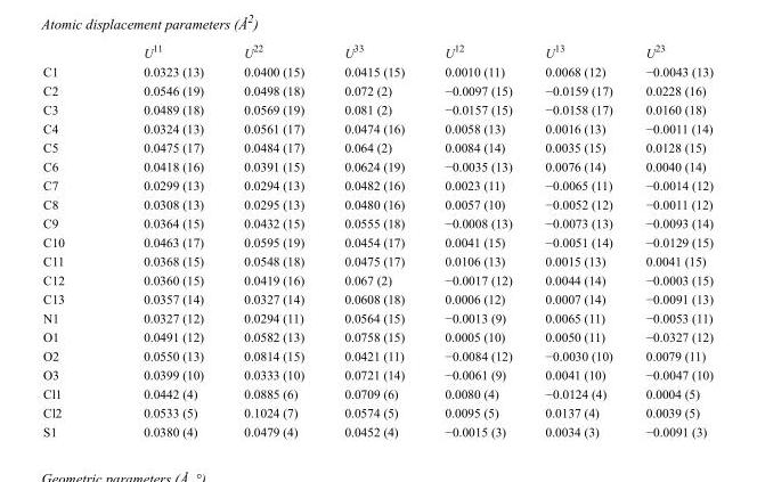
<table><thead><tr><td></td><td>U<sup>11</sup></td><td>U<sup>22</sup></td><td>U<sup>33</sup></td><td>U<sup>12</sup></td><td>U<sup>13</sup></td><td>U<sup>23</sup></td></tr></thead><tbody><tr><td>C1</td><td>0.0323 (13)</td><td>0.0400 (15)</td><td>0.0415 (15)</td><td>0.0010 (11)</td><td>0.0068 (12)</td><td>−0.0043 (13)</td></tr><tr><td>C2</td><td>0.0546 (19)</td><td>0.0498 (18)</td><td>0.072 (2)</td><td>−0.0097 (15)</td><td>−0.0159 (17)</td><td>0.0228 (16)</td></tr><tr><td>C3</td><td>0.0489 (18)</td><td>0.0569 (19)</td><td>0.081 (2)</td><td>−0.0157 (15)</td><td>−0.0158 (17)</td><td>0.0160 (18)</td></tr><tr><td>C4</td><td>0.0324 (13)</td><td>0.0561 (17)</td><td>0.0474 (16)</td><td>0.0058 (13)</td><td>0.0016 (13)</td><td>−0.0011 (14)</td></tr><tr><td>C5</td><td>0.0475 (17)</td><td>0.0484 (17)</td><td>0.064 (2)</td><td>0.0084 (14)</td><td>0.0035 (15)</td><td>0.0128 (15)</td></tr><tr><td>C6</td><td>0.0418 (16)</td><td>0.0391 (15)</td><td>0.0624 (19)</td><td>−0.0035 (13)</td><td>0.0076 (14)</td><td>0.0040 (14)</td></tr><tr><td>C7</td><td>0.0299 (13)</td><td>0.0294 (13)</td><td>0.0482 (16)</td><td>0.0023 (11)</td><td>−0.0065 (11)</td><td>−0.0014 (12)</td></tr><tr><td>C8</td><td>0.0308 (13)</td><td>0.0295 (13)</td><td>0.0480 (16)</td><td>0.0057 (10)</td><td>−0.0052 (12)</td><td>−0.0011 (12)</td></tr><tr><td>C9</td><td>0.0364 (15)</td><td>0.0432 (15)</td><td>0.0555 (18)</td><td>−0.0008 (13)</td><td>−0.0073 (13)</td><td>−0.0093 (14)</td></tr><tr><td>C10</td><td>0.0463 (17)</td><td>0.0595 (19)</td><td>0.0454 (17)</td><td>0.0041 (15)</td><td>−0.0051 (14)</td><td>−0.0129 (15)</td></tr><tr><td>C11</td><td>0.0368 (15)</td><td>0.0548 (18)</td><td>0.0475 (17)</td><td>0.0106 (13)</td><td>0.0015 (13)</td><td>0.0041 (15)</td></tr><tr><td>C12</td><td>0.0360 (15)</td><td>0.0419 (16)</td><td>0.067 (2)</td><td>−0.0017 (12)</td><td>0.0044 (14)</td><td>−0.0003 (15)</td></tr><tr><td>C13</td><td>0.0357 (14)</td><td>0.0327 (14)</td><td>0.0608 (18)</td><td>0.0006 (12)</td><td>0.0007 (14)</td><td>−0.0091 (13)</td></tr><tr><td>N1</td><td>0.0327 (12)</td><td>0.0294 (11)</td><td>0.0564 (15)</td><td>−0.0013 (9)</td><td>0.0065 (11)</td><td>−0.0053 (11)</td></tr><tr><td>O1</td><td>0.0491 (12)</td><td>0.0582 (13)</td><td>0.0758 (15)</td><td>0.0005 (10)</td><td>0.0050 (11)</td><td>−0.0327 (12)</td></tr><tr><td>O2</td><td>0.0550 (13)</td><td>0.0814 (15)</td><td>0.0421 (11)</td><td>−0.0084 (12)</td><td>−0.0030 (10)</td><td>0.0079 (11)</td></tr><tr><td>O3</td><td>0.0399 (10)</td><td>0.0333 (10)</td><td>0.0721 (14)</td><td>−0.0061 (9)</td><td>0.0041 (10)</td><td>−0.0047 (10)</td></tr><tr><td>Cl1</td><td>0.0442 (4)</td><td>0.0885 (6)</td><td>0.0709 (6)</td><td>0.0080 (4)</td><td>−0.0124 (4)</td><td>0.0004 (5)</td></tr><tr><td>Cl2</td><td>0.0533 (5)</td><td>0.1024 (7)</td><td>0.0574 (5)</td><td>0.0095 (5)</td><td>0.0137 (4)</td><td>0.0039 (5)</td></tr><tr><td>S1</td><td>0.0380 (4)</td><td>0.0479 (4)</td><td>0.0452 (4)</td><td>−0.0015 (3)</td><td>0.0034 (3)</td><td>−0.0091 (3)</td></tr></tbody></table>